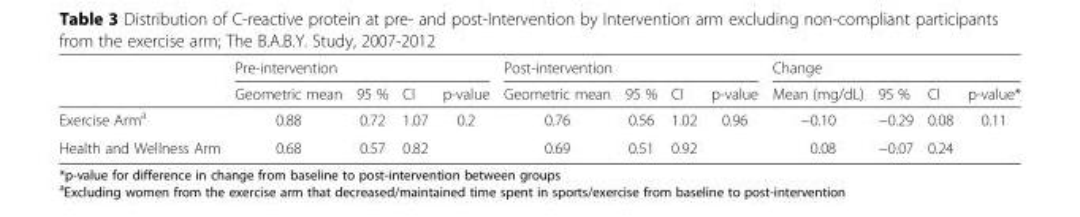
<table><thead><tr><td rowspan="2"></td><td colspan="4">Pre-intervention</td><td colspan="4">Post-intervention</td><td colspan="4">Change</td></tr><tr><td>Geometric mean</td><td>95 %</td><td>CI</td><td>p-value</td><td>Geometric mean</td><td>95 %</td><td>CI</td><td>p-value</td><td>Mean (mg/dL)</td><td>95 %</td><td>CI</td><td>p-value*</td></tr></thead><tbody><tr><td>Exercise Arm<sup>a</sup></td><td>0.88</td><td>0.72</td><td>1.07</td><td>0.2</td><td>0.76</td><td>0.56</td><td>1.02</td><td>0.96</td><td>−0.10</td><td>−0.29</td><td>0.08</td><td>0.11</td></tr><tr><td>Health and Wellness Arm</td><td>0.68</td><td>0.57</td><td>0.82</td><td></td><td>0.69</td><td>0.51</td><td>0.92</td><td></td><td>0.08</td><td>−0.07</td><td>0.24</td><td></td></tr></tbody></table>